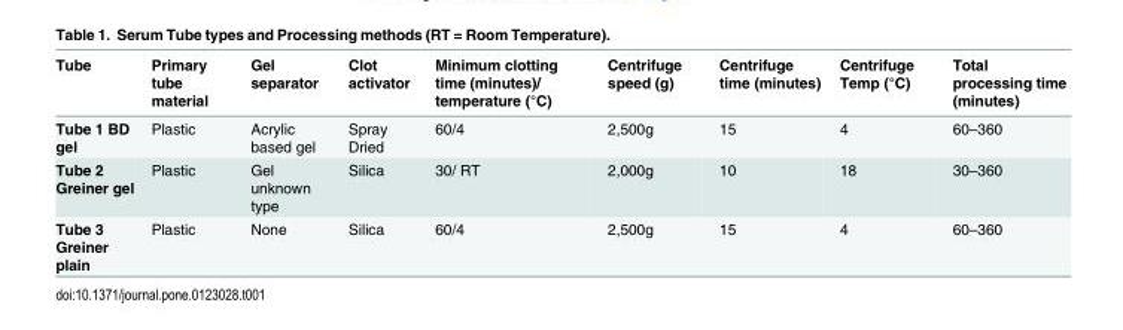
<table><thead><tr><td>Tube</td><td>Primary tube material</td><td>Gel separator</td><td>Clot activator</td><td>Minimum clotting time (minutes)/ temperature (°C)</td><td>Centrifuge speed (g)</td><td>Centrifuge time (minutes)</td><td>Centrifuge Temp (°C)</td><td>Total processing time (minutes)</td></tr></thead><tbody><tr><td>Tube 1 BD gel</td><td>Plastic</td><td>Acrylic based gel</td><td>Spray Dried</td><td>60/4</td><td>2,500g</td><td>15</td><td>4</td><td>60–360</td></tr><tr><td>Tube 2 Greiner gel</td><td>Plastic</td><td>Gel unknown type</td><td>Silica</td><td>30/ RT</td><td>2,000g</td><td>10</td><td>18</td><td>30–360</td></tr><tr><td>Tube 3 Greiner plain</td><td>Plastic</td><td>None</td><td>Silica</td><td>60/4</td><td>2,500g</td><td>15</td><td>4</td><td>60–360</td></tr></tbody></table>